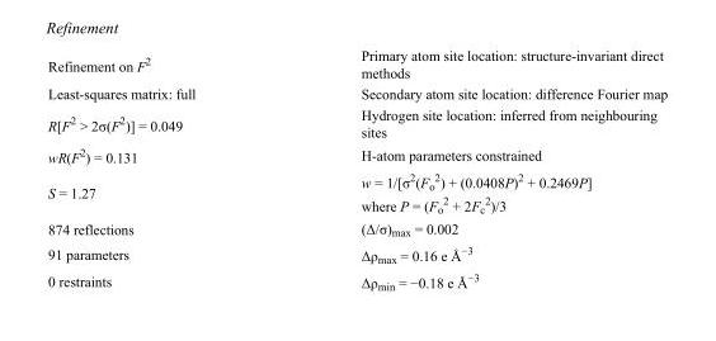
<table><tbody><tr><td>Refinement on F<sup>2</sup></td><td>Primary atom site location: structure-invariant direct methods</td></tr><tr><td>Least-squares matrix: full</td><td>Secondary atom site location: difference Fourier map</td></tr><tr><td>R[F<sup>2</sup> &gt; 2σ(F<sup>2</sup>)] = 0.049</td><td>Hydrogen site location: inferred from neighbouring sites</td></tr><tr><td>wR(F<sup>2</sup>) = 0.131</td><td>H-atom parameters constrained</td></tr><tr><td>S = 1.27</td><td>w = 1/[σ<sup>2</sup>(F<sub>o</sub> <sup>2</sup>) + (0.0408P)<sup>2</sup> + 0.2469P] where P = (F<sub>o</sub> <sup>2</sup> + 2F<sub>c</sub> <sup>2</sup>)/3</td></tr><tr><td>874 reflections</td><td>(Δ/σ)<sub>max</sub> = 0.002</td></tr><tr><td>91 parameters</td><td>Δρ<sub>max</sub> = 0.16 e Å<sup>−3</sup></td></tr><tr><td>0 restraints</td><td>Δρ<sub>min</sub> = −0.18 e Å<sup>−3</sup></td></tr></tbody></table>